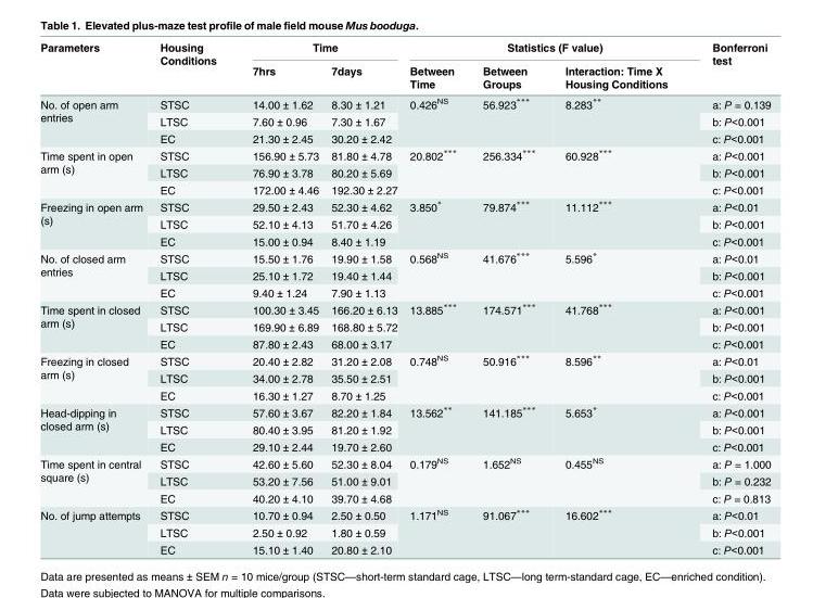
<table><thead><tr><td rowspan="2">Parameters</td><td rowspan="2">Housing Conditions</td><td colspan="2">Time</td><td colspan="3">Statistics (F value)</td><td rowspan="2">Bonferroni test</td></tr><tr><td>7hrs</td><td>7days</td><td>Between Time</td><td>Between Groups</td><td>Interaction: Time X Housing Conditions</td></tr></thead><tbody><tr><td rowspan="3">No. of open arm entries</td><td>STSC</td><td>14.00 ± 1.62</td><td>8.30 ± 1.21</td><td rowspan="3">0.426<sup>NS</sup></td><td rowspan="3">56.923***</td><td rowspan="3">8.283**</td><td>a: P = 0.139</td></tr><tr><td>LTSC</td><td>7.60 ± 0.96</td><td>7.30 ± 1.67</td><td>b: P&lt;0.001</td></tr><tr><td>EC</td><td>21.30 ± 2.45</td><td>30.20 ± 2.42</td><td>c: P&lt;0.001</td></tr><tr><td rowspan="3">Time spent in open arm (s)</td><td>STSC</td><td>156.90 ± 5.73</td><td>81.80 ± 4.78</td><td rowspan="3">20.802***</td><td rowspan="3">256.334***</td><td rowspan="3">60.928***</td><td>a: P&lt;0.001</td></tr><tr><td>LTSC</td><td>76.90 ± 3.78</td><td>80.20 ± 5.69</td><td>b: P&lt;0.001</td></tr><tr><td>EC</td><td>172.00 ± 4.46</td><td>192.30 ± 2.27</td><td>c: P&lt;0.001</td></tr><tr><td rowspan="3">Freezing in open arm (s)</td><td>STSC</td><td>29.50 ± 2.43</td><td>52.30 ± 4.62</td><td rowspan="3">3.850*</td><td rowspan="3">79.874***</td><td rowspan="3">11.112***</td><td>a: P&lt;0.01</td></tr><tr><td>LTSC</td><td>52.10 ± 4.13</td><td>51.70 ± 4.26</td><td>b: P&lt;0.001</td></tr><tr><td>EC</td><td>15.00 ± 0.94</td><td>8.40 ± 1.19</td><td>c: P&lt;0.001</td></tr><tr><td rowspan="3">No. of closed arm entries</td><td>STSC</td><td>15.50 ± 1.76</td><td>19.90 ± 1.58</td><td rowspan="3">0.568<sup>NS</sup></td><td rowspan="3">41.676***</td><td rowspan="3">5.596*</td><td>a: P&lt;0.01</td></tr><tr><td>LTSC</td><td>25.10 ± 1.72</td><td>19.40 ± 1.44</td><td>b: P&lt;0.001</td></tr><tr><td>EC</td><td>9.40 ± 1.24</td><td>7.90 ± 1.13</td><td>c: P&lt;0.001</td></tr><tr><td rowspan="3">Time spent in closed arm (s)</td><td>STSC</td><td>100.30 ± 3.45</td><td>166.20 ± 6.13</td><td rowspan="3">13.885***</td><td rowspan="3">174.571***</td><td rowspan="3">41.768***</td><td>a: P&lt;0.001</td></tr><tr><td>LTSC</td><td>169.90 ± 6.89</td><td>168.80 ± 5.72</td><td>b: P&lt;0.001</td></tr><tr><td>EC</td><td>87.80 ± 2.43</td><td>68.00 ± 3.17</td><td>c: P&lt;0.001</td></tr><tr><td rowspan="3">Freezing in closed arm (s)</td><td>STSC</td><td>20.40 ± 2.82</td><td>31.20 ± 2.08</td><td rowspan="3">0.748<sup>NS</sup></td><td rowspan="3">50.916***</td><td rowspan="3">8.596**</td><td>a: P&lt;0.01</td></tr><tr><td>LTSC</td><td>34.00 ± 2.78</td><td>35.50 ± 2.51</td><td>b: P&lt;0.001</td></tr><tr><td>EC</td><td>16.30 ± 1.27</td><td>8.70 ± 1.25</td><td>c: P&lt;0.001</td></tr><tr><td rowspan="3">Head-dipping in closed arm (s)</td><td>STSC</td><td>57.60 ± 3.67</td><td>82.20 ± 1.84</td><td rowspan="3">13.562**</td><td rowspan="3">141.185***</td><td rowspan="3">5.653*</td><td>a: P&lt;0.001</td></tr><tr><td>LTSC</td><td>80.40 ± 3.95</td><td>81.20 ± 1.92</td><td>b: P&lt;0.001</td></tr><tr><td>EC</td><td>29.10 ± 2.44</td><td>19.70 ± 2.60</td><td>c: P&lt;0.001</td></tr><tr><td rowspan="3">Time spent in central square (s)</td><td>STSC</td><td>42.60 ± 5.60</td><td>52.30 ± 8.04</td><td rowspan="3">0.179<sup>NS</sup></td><td rowspan="3">1.652<sup>NS</sup></td><td rowspan="3">0.455<sup>NS</sup></td><td>a: P = 1.000</td></tr><tr><td>LTSC</td><td>53.20 ± 7.56</td><td>51.00 ± 9.01</td><td>b: P = 0.232</td></tr><tr><td>EC</td><td>40.20 ± 4.10</td><td>39.70 ± 4.68</td><td>c: P = 0.813</td></tr><tr><td rowspan="3">No. of jump attempts</td><td>STSC</td><td>10.70 ± 0.94</td><td>2.50 ± 0.50</td><td rowspan="3">1.171<sup>NS</sup></td><td rowspan="3">91.067***</td><td rowspan="3">16.602***</td><td>a: P&lt;0.01</td></tr><tr><td>LTSC</td><td>2.50 ± 0.92</td><td>1.80 ± 0.59</td><td>b: P&lt;0.001</td></tr><tr><td>EC</td><td>15.10 ± 1.40</td><td>20.80 ± 2.10</td><td>c: P&lt;0.001</td></tr></tbody></table>